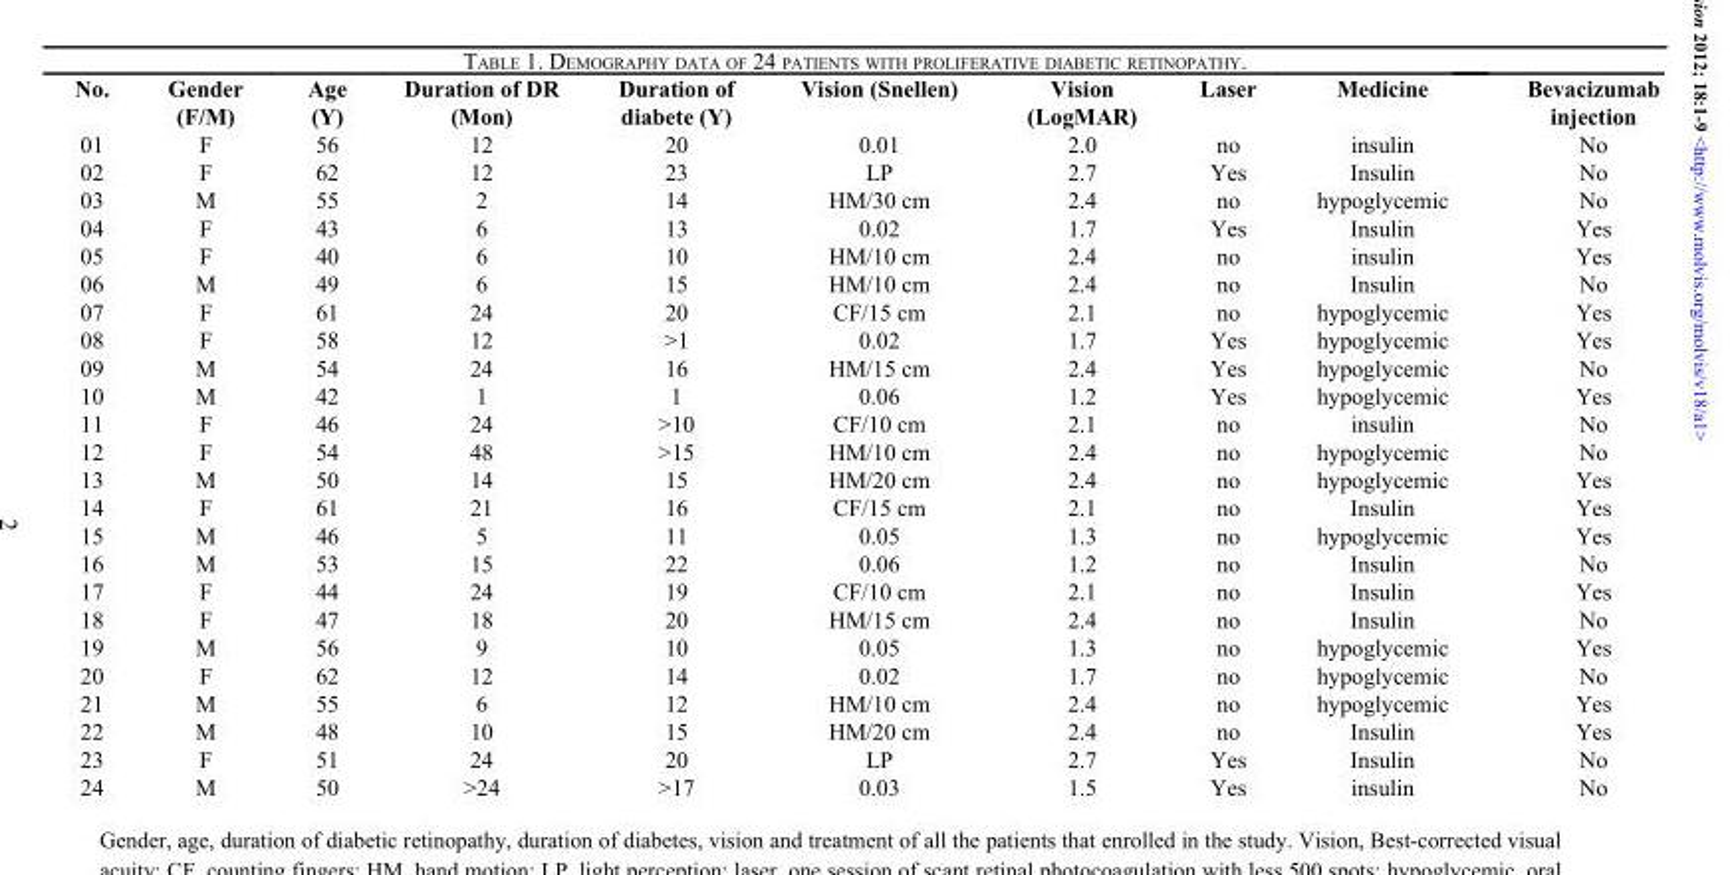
<table><thead><tr><td>No.</td><td>Gender (F/M)</td><td>Age (Y)</td><td>Duration of DR (Mon)</td><td>Duration of diabete (Y)</td><td>Vision (Snellen)</td><td>Vision (LogMAR)</td><td>Laser</td><td>Medicine</td><td>Bevacizumab injection</td></tr></thead><tbody><tr><td>01</td><td>F</td><td>56</td><td>12</td><td>20</td><td>0.01</td><td>2.0</td><td>no</td><td>insulin</td><td>No</td></tr><tr><td>02</td><td>F</td><td>62</td><td>12</td><td>23</td><td>LP</td><td>2.7</td><td>Yes</td><td>Insulin</td><td>No</td></tr><tr><td>03</td><td>M</td><td>55</td><td>2</td><td>14</td><td>HM/30 cm</td><td>2.4</td><td>no</td><td>hypoglycemic</td><td>No</td></tr><tr><td>04</td><td>F</td><td>43</td><td>6</td><td>13</td><td>0.02</td><td>1.7</td><td>Yes</td><td>Insulin</td><td>Yes</td></tr><tr><td>05</td><td>F</td><td>40</td><td>6</td><td>10</td><td>HM/10 cm</td><td>2.4</td><td>no</td><td>insulin</td><td>Yes</td></tr><tr><td>06</td><td>M</td><td>49</td><td>6</td><td>15</td><td>HM/10 cm</td><td>2.4</td><td>no</td><td>Insulin</td><td>No</td></tr><tr><td>07</td><td>F</td><td>61</td><td>24</td><td>20</td><td>CF/15 cm</td><td>2.1</td><td>no</td><td>hypoglycemic</td><td>Yes</td></tr><tr><td>08</td><td>F</td><td>58</td><td>12</td><td>&gt;1</td><td>0.02</td><td>1.7</td><td>Yes</td><td>hypoglycemic</td><td>Yes</td></tr><tr><td>09</td><td>M</td><td>54</td><td>24</td><td>16</td><td>HM/15 cm</td><td>2.4</td><td>Yes</td><td>hypoglycemic</td><td>No</td></tr><tr><td>10</td><td>M</td><td>42</td><td>1</td><td>1</td><td>0.06</td><td>1.2</td><td>Yes</td><td>hypoglycemic</td><td>Yes</td></tr><tr><td>11</td><td>F</td><td>46</td><td>24</td><td>&gt;10</td><td>CF/10 cm</td><td>2.1</td><td>no</td><td>insulin</td><td>No</td></tr><tr><td>12</td><td>F</td><td>54</td><td>48</td><td>&gt;15</td><td>HM/10 cm</td><td>2.4</td><td>no</td><td>hypoglycemic</td><td>No</td></tr><tr><td>13</td><td>M</td><td>50</td><td>14</td><td>15</td><td>HM/20 cm</td><td>2.4</td><td>no</td><td>hypoglycemic</td><td>Yes</td></tr><tr><td>14</td><td>F</td><td>61</td><td>21</td><td>16</td><td>CF/15 cm</td><td>2.1</td><td>no</td><td>Insulin</td><td>Yes</td></tr><tr><td>15</td><td>M</td><td>46</td><td>5</td><td>11</td><td>0.05</td><td>1.3</td><td>no</td><td>hypoglycemic</td><td>Yes</td></tr><tr><td>16</td><td>M</td><td>53</td><td>15</td><td>22</td><td>0.06</td><td>1.2</td><td>no</td><td>Insulin</td><td>No</td></tr><tr><td>17</td><td>F</td><td>44</td><td>24</td><td>19</td><td>CF/10 cm</td><td>2.1</td><td>no</td><td>Insulin</td><td>Yes</td></tr><tr><td>18</td><td>F</td><td>47</td><td>18</td><td>20</td><td>HM/15 cm</td><td>2.4</td><td>no</td><td>Insulin</td><td>No</td></tr><tr><td>19</td><td>M</td><td>56</td><td>9</td><td>10</td><td>0.05</td><td>1.3</td><td>no</td><td>hypoglycemic</td><td>Yes</td></tr><tr><td>20</td><td>F</td><td>62</td><td>12</td><td>14</td><td>0.02</td><td>1.7</td><td>no</td><td>hypoglycemic</td><td>No</td></tr><tr><td>21</td><td>M</td><td>55</td><td>6</td><td>12</td><td>HM/10 cm</td><td>2.4</td><td>no</td><td>hypoglycemic</td><td>Yes</td></tr><tr><td>22</td><td>M</td><td>48</td><td>10</td><td>15</td><td>HM/20 cm</td><td>2.4</td><td>no</td><td>Insulin</td><td>Yes</td></tr><tr><td>23</td><td>F</td><td>51</td><td>24</td><td>20</td><td>LP</td><td>2.7</td><td>Yes</td><td>Insulin</td><td>No</td></tr><tr><td>24</td><td>M</td><td>50</td><td>&gt;24</td><td>&gt;17</td><td>0.03</td><td>1.5</td><td>Yes</td><td>insulin</td><td>No</td></tr></tbody></table>